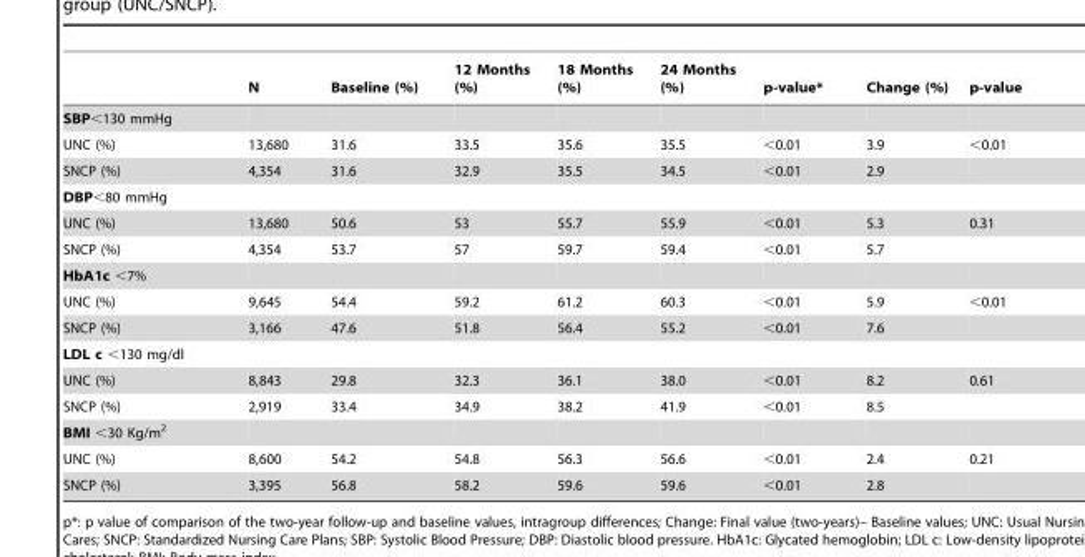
<table><thead><tr><td></td><td>N</td><td>Baseline (%)</td><td>12 Months (%)</td><td>18 Months (%)</td><td>24 Months (%)</td><td>p-value*</td><td>Change (%)</td><td>p-value</td></tr></thead><tbody><tr><td colspan="9">SBP&lt;130 mmHg</td></tr><tr><td>UNC (%)</td><td>13,680</td><td>31.6</td><td>33.5</td><td>35.6</td><td>35.5</td><td>&lt;0.01</td><td>3.9</td><td>&lt;0.01</td></tr><tr><td>SNCP (%)</td><td>4,354</td><td>31.6</td><td>32.9</td><td>35.5</td><td>34.5</td><td>&lt;0.01</td><td>2.9</td><td></td></tr><tr><td colspan="9">DBP&lt;80 mmHg</td></tr><tr><td>UNC (%)</td><td>13,680</td><td>50.6</td><td>53</td><td>55.7</td><td>55.9</td><td>&lt;0.01</td><td>5.3</td><td>0.31</td></tr><tr><td>SNCP (%)</td><td>4,354</td><td>53.7</td><td>57</td><td>59.7</td><td>59.4</td><td>&lt;0.01</td><td>5.7</td><td></td></tr><tr><td colspan="9">HbA1c &lt;7%</td></tr><tr><td>UNC (%)</td><td>9,645</td><td>54.4</td><td>59.2</td><td>61.2</td><td>60.3</td><td>&lt;0.01</td><td>5.9</td><td>&lt;0.01</td></tr><tr><td>SNCP (%)</td><td>3,166</td><td>47.6</td><td>51.8</td><td>56.4</td><td>55.2</td><td>&lt;0.01</td><td>7.6</td><td></td></tr><tr><td colspan="9">LDL c &lt;130 mg/dl</td></tr><tr><td>UNC (%)</td><td>8,843</td><td>29.8</td><td>32.3</td><td>36.1</td><td>38.0</td><td>&lt;0.01</td><td>8.2</td><td>0.61</td></tr><tr><td>SNCP (%)</td><td>2,919</td><td>33.4</td><td>34.9</td><td>38.2</td><td>41.9</td><td>&lt;0.01</td><td>8.5</td><td></td></tr><tr><td colspan="9">BMI &lt;30 Kg/m<sup>2</sup></td></tr><tr><td>UNC (%)</td><td>8,600</td><td>54.2</td><td>54.8</td><td>56.3</td><td>56.6</td><td>&lt;0.01</td><td>2.4</td><td>0.21</td></tr><tr><td>SNCP (%)</td><td>3,395</td><td>56.8</td><td>58.2</td><td>59.6</td><td>59.6</td><td>&lt;0.01</td><td>2.8</td><td></td></tr></tbody></table>